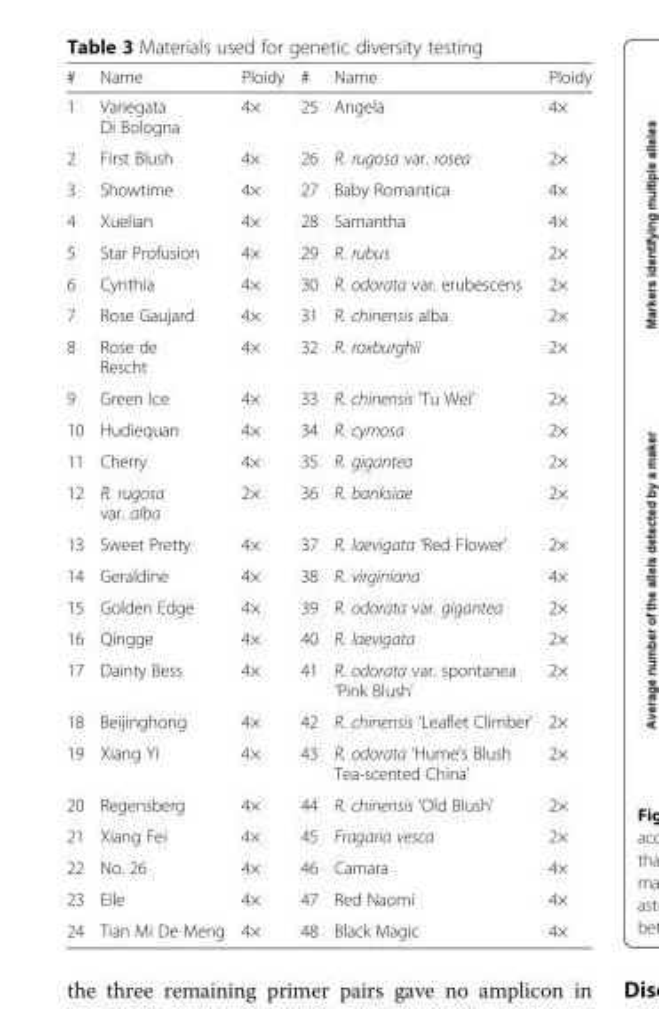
<table><thead><tr><td>#</td><td>Name</td><td>Ploidy</td><td>#</td><td>Name</td><td>Ploidy</td></tr></thead><tbody><tr><td>1</td><td>Variegata Di Bologna</td><td>4×</td><td>25</td><td>Angela</td><td>4×</td></tr><tr><td>2</td><td>First Blush</td><td>4×</td><td>26</td><td>R. rugosa var. rosea</td><td>2×</td></tr><tr><td>3</td><td>Showtime</td><td>4×</td><td>27</td><td>Baby Romantica</td><td>4×</td></tr><tr><td>4</td><td>Xuelian</td><td>4×</td><td>28</td><td>Samantha</td><td>4×</td></tr><tr><td>5</td><td>Star Profusion</td><td>4×</td><td>29</td><td>R. rubus</td><td>2×</td></tr><tr><td>6</td><td>Cynthia</td><td>4×</td><td>30</td><td>R. odorata var. erubescens</td><td>2×</td></tr><tr><td>7</td><td>Rose Gaujard</td><td>4×</td><td>31</td><td>R. chinensis alba</td><td>2×</td></tr><tr><td>8</td><td>Rose de Rescht</td><td>4×</td><td>32</td><td>R. roxburghii</td><td>2×</td></tr><tr><td>9</td><td>Green Ice</td><td>4×</td><td>33</td><td>R. chinensis ‘Tu Wei’</td><td>2×</td></tr><tr><td>10</td><td>Hudiequan</td><td>4×</td><td>34</td><td>R. cymosa</td><td>2×</td></tr><tr><td>11</td><td>Cherry</td><td>4×</td><td>35</td><td>R. gigantea</td><td>2×</td></tr><tr><td>12</td><td>R. rugosa var. alba</td><td>2×</td><td>36</td><td>R. banksiae</td><td>2×</td></tr><tr><td>13</td><td>Sweet Pretty</td><td>4×</td><td>37</td><td>R. laevigata ‘Red Flower’</td><td>2×</td></tr><tr><td>14</td><td>Geraldine</td><td>4×</td><td>38</td><td>R. virginiana</td><td>4×</td></tr><tr><td>15</td><td>Golden Edge</td><td>4×</td><td>39</td><td>R. odorata var. gigantea</td><td>2×</td></tr><tr><td>16</td><td>Qingge</td><td>4×</td><td>40</td><td>R. laevigata</td><td>2×</td></tr><tr><td>17</td><td>Dainty Bess</td><td>4×</td><td>41</td><td>R. odorata var. spontanea ‘Pink Blush’</td><td>2×</td></tr><tr><td>18</td><td>Beijinghong</td><td>4×</td><td>42</td><td>R. chinensis ‘Leaflet Climber’</td><td>2×</td></tr><tr><td>19</td><td>Xiang Yi</td><td>4×</td><td>43</td><td>R. odorata ‘Hume’s Blush Tea-scented China’</td><td>2×</td></tr><tr><td>20</td><td>Regensberg</td><td>4×</td><td>44</td><td>R. chinensis ‘Old Blush’</td><td>2×</td></tr><tr><td>21</td><td>Xiang Fei</td><td>4×</td><td>45</td><td>Fragaria vesca</td><td>2×</td></tr><tr><td>22</td><td>No. 26</td><td>4×</td><td>46</td><td>Camara</td><td>4×</td></tr><tr><td>23</td><td>Elle</td><td>4×</td><td>47</td><td>Red Naomi</td><td>4×</td></tr><tr><td>24</td><td>Tian Mi De Meng</td><td>4×</td><td>48</td><td>Black Magic</td><td>4×</td></tr></tbody></table>